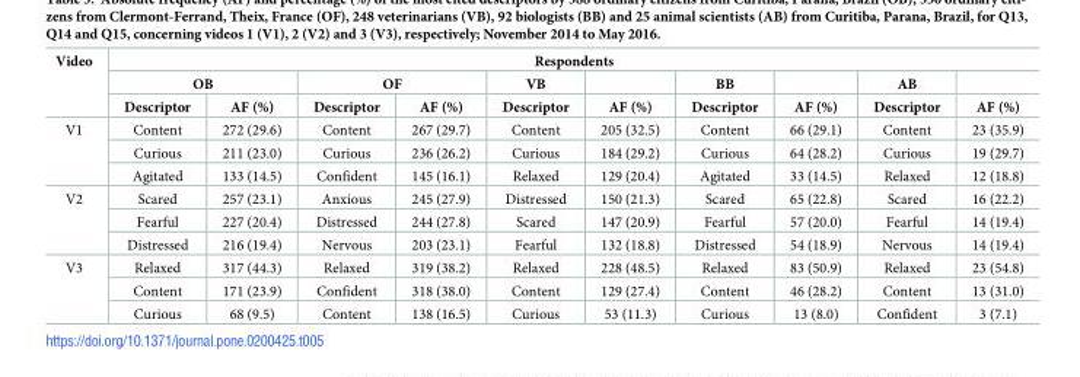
<table><thead><tr><td rowspan="3">Video</td><td colspan="10">Respondents</td></tr><tr><td colspan="2">OB</td><td colspan="2">OF</td><td rowspan="2">VB Descriptor</td><td rowspan="2">AF (%)</td><td rowspan="2">BB Descriptor</td><td rowspan="2">AF (%)</td><td rowspan="2">AB Descriptor</td><td rowspan="2">AF (%)</td></tr><tr><td>Descriptor</td><td>AF (%)</td><td>Descriptor</td><td>AF (%)</td></tr></thead><tbody><tr><td rowspan="3">V1</td><td>Content</td><td>272 (29.6)</td><td>Content</td><td>267 (29.7)</td><td>Content</td><td>205 (32.5)</td><td>Content</td><td>66 (29.1)</td><td>Content</td><td>23 (35.9)</td></tr><tr><td>Curious</td><td>211 (23.0)</td><td>Curious</td><td>236 (26.2)</td><td>Curious</td><td>184 (29.2)</td><td>Curious</td><td>64 (28.2)</td><td>Curious</td><td>19 (29.7)</td></tr><tr><td>Agitated</td><td>133 (14.5)</td><td>Confident</td><td>145 (16.1)</td><td>Relaxed</td><td>129 (20.4)</td><td>Agitated</td><td>33 (14.5)</td><td>Relaxed</td><td>12 (18.8)</td></tr><tr><td rowspan="3">V2</td><td>Scared</td><td>257 (23.1)</td><td>Anxious</td><td>245 (27.9)</td><td>Distressed</td><td>150 (21.3)</td><td>Scared</td><td>65 (22.8)</td><td>Scared</td><td>16 (22.2)</td></tr><tr><td>Fearful</td><td>227 (20.4)</td><td>Distressed</td><td>244 (27.8)</td><td>Scared</td><td>147 (20.9)</td><td>Fearful</td><td>57 (20.0)</td><td>Fearful</td><td>14 (19.4)</td></tr><tr><td>Distressed</td><td>216 (19.4)</td><td>Nervous</td><td>203 (23.1)</td><td>Fearful</td><td>132 (18.8)</td><td>Distressed</td><td>54 (18.9)</td><td>Nervous</td><td>14 (19.4)</td></tr><tr><td rowspan="3">V3</td><td>Relaxed</td><td>317 (44.3)</td><td>Relaxed</td><td>319 (38.2)</td><td>Relaxed</td><td>228 (48.5)</td><td>Relaxed</td><td>83 (50.9)</td><td>Relaxed</td><td>23 (54.8)</td></tr><tr><td>Content</td><td>171 (23.9)</td><td>Confident</td><td>318 (38.0)</td><td>Content</td><td>129 (27.4)</td><td>Content</td><td>46 (28.2)</td><td>Content</td><td>13 (31.0)</td></tr><tr><td>Curious</td><td>68 (9.5)</td><td>Content</td><td>138 (16.5)</td><td>Curious</td><td>53 (11.3)</td><td>Curious</td><td>13 (8.0)</td><td>Confident</td><td>3 (7.1)</td></tr></tbody></table>